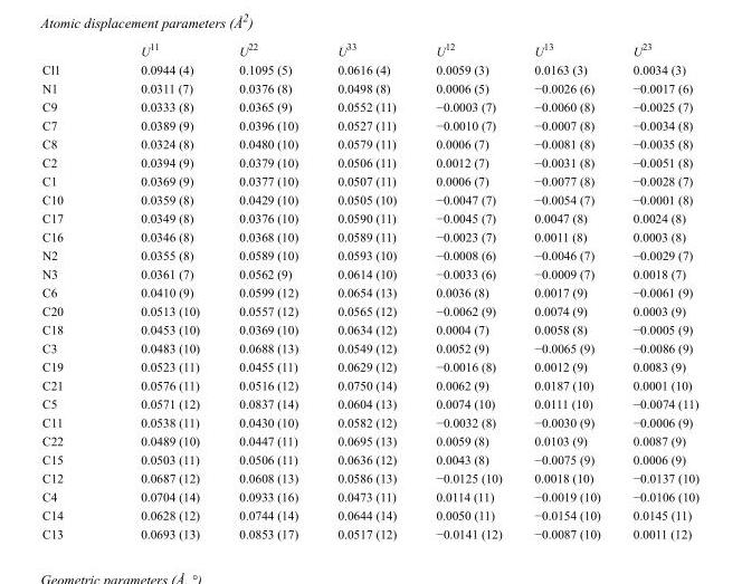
<table><thead><tr><td></td><td>U<sup>11</sup></td><td>U<sup>22</sup></td><td>U<sup>33</sup></td><td>U<sup>12</sup></td><td>U<sup>13</sup></td><td>U<sup>23</sup></td></tr></thead><tbody><tr><td>Cl1</td><td>0.0944 (4)</td><td>0.1095 (5)</td><td>0.0616 (4)</td><td>0.0059 (3)</td><td>0.0163 (3)</td><td>0.0034 (3)</td></tr><tr><td>N1</td><td>0.0311 (7)</td><td>0.0376 (8)</td><td>0.0498 (8)</td><td>0.0006 (5)</td><td>−0.0026 (6)</td><td>−0.0017 (6)</td></tr><tr><td>C9</td><td>0.0333 (8)</td><td>0.0365 (9)</td><td>0.0552 (11)</td><td>−0.0003 (7)</td><td>−0.0060 (8)</td><td>−0.0025 (7)</td></tr><tr><td>C7</td><td>0.0389 (9)</td><td>0.0396 (10)</td><td>0.0527 (11)</td><td>−0.0010 (7)</td><td>−0.0007 (8)</td><td>−0.0034 (8)</td></tr><tr><td>C8</td><td>0.0324 (8)</td><td>0.0480 (10)</td><td>0.0579 (11)</td><td>0.0006 (7)</td><td>−0.0081 (8)</td><td>−0.0035 (8)</td></tr><tr><td>C2</td><td>0.0394 (9)</td><td>0.0379 (10)</td><td>0.0506 (11)</td><td>0.0012 (7)</td><td>−0.0031 (8)</td><td>−0.0051 (8)</td></tr><tr><td>C1</td><td>0.0369 (9)</td><td>0.0377 (10)</td><td>0.0507 (11)</td><td>0.0006 (7)</td><td>−0.0077 (8)</td><td>−0.0028 (7)</td></tr><tr><td>C10</td><td>0.0359 (8)</td><td>0.0429 (10)</td><td>0.0505 (10)</td><td>−0.0047 (7)</td><td>−0.0054 (7)</td><td>−0.0001 (8)</td></tr><tr><td>C17</td><td>0.0349 (8)</td><td>0.0376 (10)</td><td>0.0590 (11)</td><td>−0.0045 (7)</td><td>0.0047 (8)</td><td>0.0024 (8)</td></tr><tr><td>C16</td><td>0.0346 (8)</td><td>0.0368 (10)</td><td>0.0589 (11)</td><td>−0.0023 (7)</td><td>0.0011 (8)</td><td>0.0003 (8)</td></tr><tr><td>N2</td><td>0.0355 (8)</td><td>0.0589 (10)</td><td>0.0593 (10)</td><td>−0.0008 (6)</td><td>−0.0046 (7)</td><td>−0.0029 (7)</td></tr><tr><td>N3</td><td>0.0361 (7)</td><td>0.0562 (9)</td><td>0.0614 (10)</td><td>−0.0033 (6)</td><td>−0.0009 (7)</td><td>0.0018 (7)</td></tr><tr><td>C6</td><td>0.0410 (9)</td><td>0.0599 (12)</td><td>0.0654 (13)</td><td>0.0036 (8)</td><td>0.0017 (9)</td><td>−0.0061 (9)</td></tr><tr><td>C20</td><td>0.0513 (10)</td><td>0.0557 (12)</td><td>0.0565 (12)</td><td>−0.0062 (9)</td><td>0.0074 (9)</td><td>0.0003 (9)</td></tr><tr><td>C18</td><td>0.0453 (10)</td><td>0.0369 (10)</td><td>0.0634 (12)</td><td>0.0004 (7)</td><td>0.0058 (8)</td><td>−0.0005 (9)</td></tr><tr><td>C3</td><td>0.0483 (10)</td><td>0.0688 (13)</td><td>0.0549 (12)</td><td>0.0052 (9)</td><td>−0.0065 (9)</td><td>−0.0086 (9)</td></tr><tr><td>C19</td><td>0.0523 (11)</td><td>0.0455 (11)</td><td>0.0629 (12)</td><td>−0.0016 (8)</td><td>0.0012 (9)</td><td>0.0083 (9)</td></tr><tr><td>C21</td><td>0.0576 (11)</td><td>0.0516 (12)</td><td>0.0750 (14)</td><td>0.0062 (9)</td><td>0.0187 (10)</td><td>0.0001 (10)</td></tr><tr><td>C5</td><td>0.0571 (12)</td><td>0.0837 (14)</td><td>0.0604 (13)</td><td>0.0074 (10)</td><td>0.0111 (10)</td><td>−0.0074 (11)</td></tr><tr><td>C11</td><td>0.0538 (11)</td><td>0.0430 (10)</td><td>0.0582 (12)</td><td>−0.0032 (8)</td><td>−0.0030 (9)</td><td>−0.0006 (9)</td></tr><tr><td>C22</td><td>0.0489 (10)</td><td>0.0447 (11)</td><td>0.0695 (13)</td><td>0.0059 (8)</td><td>0.0103 (9)</td><td>0.0087 (9)</td></tr><tr><td>C15</td><td>0.0503 (11)</td><td>0.0506 (11)</td><td>0.0636 (12)</td><td>0.0043 (8)</td><td>−0.0075 (9)</td><td>0.0006 (9)</td></tr><tr><td>C12</td><td>0.0687 (12)</td><td>0.0608 (13)</td><td>0.0586 (13)</td><td>−0.0125 (10)</td><td>0.0018 (10)</td><td>−0.0137 (10)</td></tr><tr><td>C4</td><td>0.0704 (14)</td><td>0.0933 (16)</td><td>0.0473 (11)</td><td>0.0114 (11)</td><td>−0.0019 (10)</td><td>−0.0106 (10)</td></tr><tr><td>C14</td><td>0.0628 (12)</td><td>0.0744 (14)</td><td>0.0644 (14)</td><td>0.0050 (11)</td><td>−0.0154 (10)</td><td>0.0145 (11)</td></tr><tr><td>C13</td><td>0.0693 (13)</td><td>0.0853 (17)</td><td>0.0517 (12)</td><td>−0.0141 (12)</td><td>−0.0087 (10)</td><td>0.0011 (12)</td></tr></tbody></table>